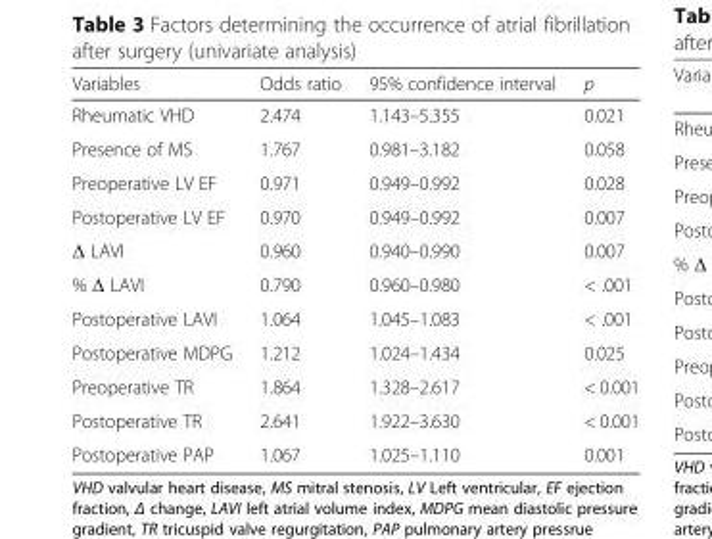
<table><thead><tr><td>Variables</td><td>Odds ratio</td><td>95% confidence interval</td><td>p</td></tr></thead><tbody><tr><td>Rheumatic VHD</td><td>2.474</td><td>1.143–5.355</td><td>0.021</td></tr><tr><td>Presence of MS</td><td>1.767</td><td>0.981–3.182</td><td>0.058</td></tr><tr><td>Preoperative LV EF</td><td>0.971</td><td>0.949–0.992</td><td>0.028</td></tr><tr><td>Postoperative LV EF</td><td>0.970</td><td>0.949–0.992</td><td>0.007</td></tr><tr><td>Δ LAVI</td><td>0.960</td><td>0.940–0.990</td><td>0.007</td></tr><tr><td>% Δ LAVI</td><td>0.790</td><td>0.960–0.980</td><td>&lt; .001</td></tr><tr><td>Postoperative LAVI</td><td>1.064</td><td>1.045–1.083</td><td>&lt; .001</td></tr><tr><td>Postoperative MDPG</td><td>1.212</td><td>1.024–1.434</td><td>0.025</td></tr><tr><td>Preoperative TR</td><td>1.864</td><td>1.328–2.617</td><td>&lt; 0.001</td></tr><tr><td>Postoperative TR</td><td>2.641</td><td>1.922–3.630</td><td>&lt; 0.001</td></tr><tr><td>Postoperative PAP</td><td>1.067</td><td>1.025–1.110</td><td>0.001</td></tr></tbody></table>